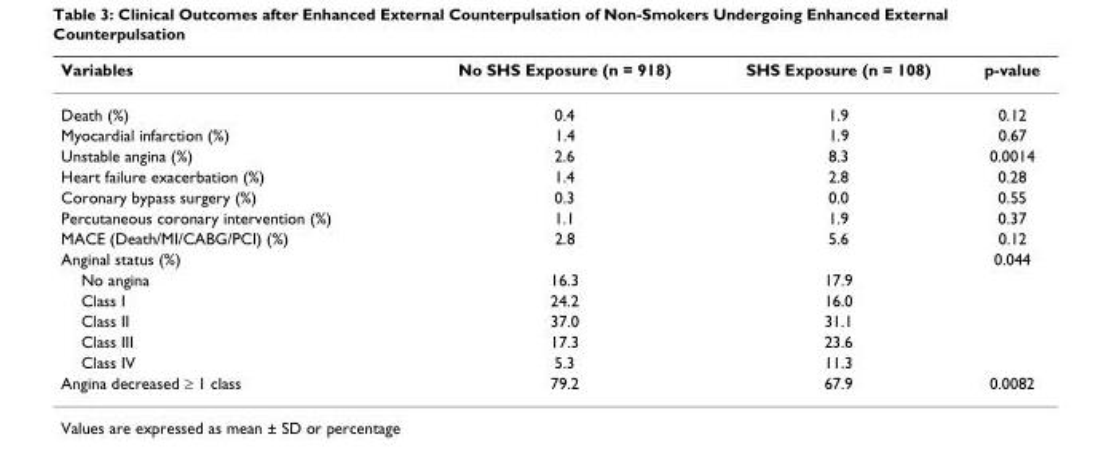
<table><thead><tr><td>Variables</td><td>No SHS Exposure (n = 918)</td><td>SHS Exposure (n = 108)</td><td>p-value</td></tr></thead><tbody><tr><td>Death (%)</td><td>0.4</td><td>1.9</td><td>0.12</td></tr><tr><td>Myocardial infarction (%)</td><td>1.4</td><td>1.9</td><td>0.67</td></tr><tr><td>Unstable angina (%)</td><td>2.6</td><td>8.3</td><td>0.0014</td></tr><tr><td>Heart failure exacerbation (%)</td><td>1.4</td><td>2.8</td><td>0.28</td></tr><tr><td>Coronary bypass surgery (%)</td><td>0.3</td><td>0.0</td><td>0.55</td></tr><tr><td>Percutaneous coronary intervention (%)</td><td>1.1</td><td>1.9</td><td>0.37</td></tr><tr><td>MACE (Death/MI/CABG/PCI) (%)</td><td>2.8</td><td>5.6</td><td>0.12</td></tr><tr><td>Anginal status (%)</td><td></td><td></td><td>0.044</td></tr><tr><td>No angina</td><td>16.3</td><td>17.9</td><td></td></tr><tr><td>Class I</td><td>24.2</td><td>16.0</td><td></td></tr><tr><td>Class II</td><td>37.0</td><td>31.1</td><td></td></tr><tr><td>Class III</td><td>17.3</td><td>23.6</td><td></td></tr><tr><td>Class IV</td><td>5.3</td><td>11.3</td><td></td></tr><tr><td>Angina decreased ≥ 1 class</td><td>79.2</td><td>67.9</td><td>0.0082</td></tr></tbody></table>